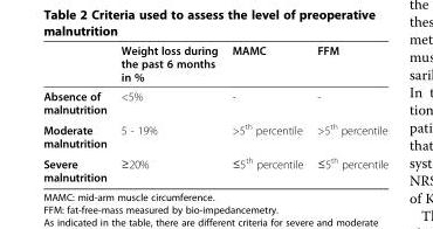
<table><thead><tr><td></td><td>Weight loss during the past 6 months in %</td><td>MAMC</td><td>FFM</td></tr></thead><tbody><tr><td>Absence of malnutrition</td><td>&lt;5%</td><td>-</td><td>-</td></tr><tr><td>Moderate malnutrition</td><td>5 - 19%</td><td>&gt;5<sup>th</sup> percentile</td><td>&gt;5<sup>th</sup> percentile</td></tr><tr><td>Severe malnutrition</td><td>≥20%</td><td>≤5<sup>th</sup> percentile</td><td>≤5<sup>th</sup> percentile</td></tr></tbody></table>